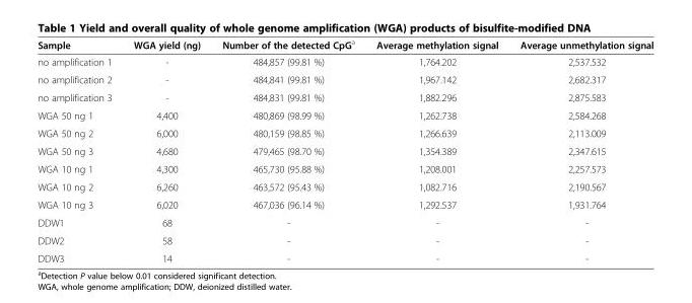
<table><thead><tr><td>Sample</td><td>WGA yield (ng)</td><td>Number of the detected CpG<sup>a</sup></td><td>Average methylation signal</td><td>Average unmethylation signal</td></tr></thead><tbody><tr><td>no amplification 1</td><td>-</td><td>484,857 (99.81 %)</td><td>1,764.202</td><td>2,537.532</td></tr><tr><td>no amplification 2</td><td>-</td><td>484,841 (99.81 %)</td><td>1,967.142</td><td>2,682.317</td></tr><tr><td>no amplification 3</td><td>-</td><td>484,831 (99.81 %)</td><td>1,882.296</td><td>2,875.583</td></tr><tr><td>WGA 50 ng 1</td><td>4,400</td><td>480,869 (98.99 %)</td><td>1,262.738</td><td>2,584.268</td></tr><tr><td>WGA 50 ng 2</td><td>6,000</td><td>480,159 (98.85 %)</td><td>1,266.639</td><td>2,113.009</td></tr><tr><td>WGA 50 ng 3</td><td>4,680</td><td>479,465 (98.70 %)</td><td>1,354.389</td><td>2,347.615</td></tr><tr><td>WGA 10 ng 1</td><td>4,300</td><td>465,730 (95.88 %)</td><td>1,208.001</td><td>2,257.573</td></tr><tr><td>WGA 10 ng 2</td><td>6,260</td><td>463,572 (95.43 %)</td><td>1,082.716</td><td>2,190.567</td></tr><tr><td>WGA 10 ng 3</td><td>6,020</td><td>467,036 (96.14 %)</td><td>1,292.537</td><td>1,931.764</td></tr><tr><td>DDW1</td><td>68</td><td>-</td><td>-</td><td>-</td></tr><tr><td>DDW2</td><td>58</td><td>-</td><td>-</td><td>-</td></tr><tr><td>DDW3</td><td>14</td><td>-</td><td>-</td><td>-</td></tr></tbody></table>